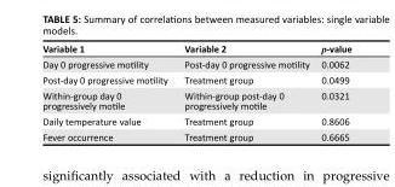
<table><thead><tr><td>Variable 1</td><td>Variable 2</td><td>p-value</td></tr></thead><tbody><tr><td>Day 0 progressive motility</td><td>Post-day 0 progressive motility</td><td>0.0062</td></tr><tr><td>Post-day 0 progressive motility</td><td>Treatment group</td><td>0.0499</td></tr><tr><td>Within-group day 0 progressively motile</td><td>Within-group post-day 0 progressively motile</td><td>0.0321</td></tr><tr><td>Daily temperature value</td><td>Treatment group</td><td>0.8606</td></tr><tr><td>Fever occurrence</td><td>Treatment group</td><td>0.6665</td></tr></tbody></table>